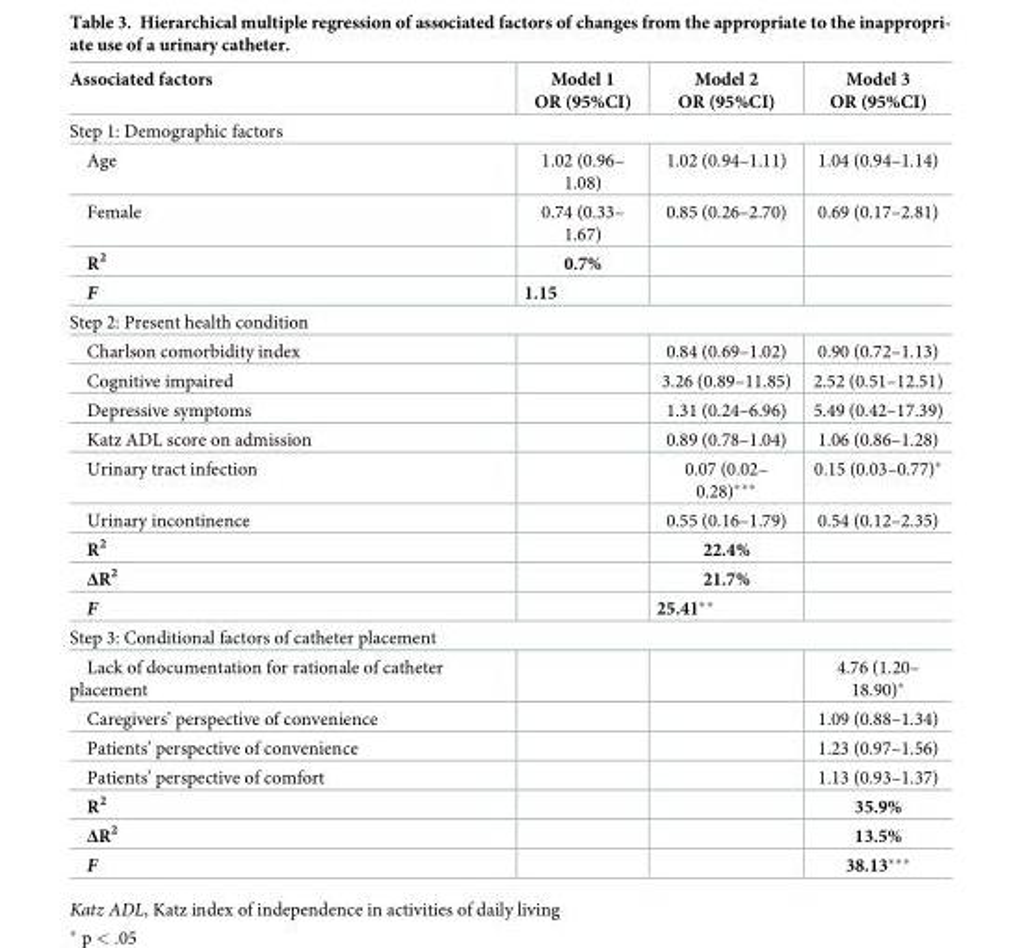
<table><thead><tr><td>Associated factors</td><td>Model 1 OR (95%CI)</td><td>Model 2 OR (95%CI)</td><td>Model 3 OR (95%CI)</td></tr></thead><tbody><tr><td colspan="4">Step 1: Demographic factors</td></tr><tr><td>Age</td><td>1.02 (0.96– 1.08)</td><td>1.02 (0.94–1.11)</td><td>1.04 (0.94–1.14)</td></tr><tr><td>Female</td><td>0.74 (0.33– 1.67)</td><td>0.85 (0.26–2.70)</td><td>0.69 (0.17–2.81)</td></tr><tr><td>R<sup>2</sup></td><td>0.7%</td><td></td><td></td></tr><tr><td>F</td><td>1.15</td><td></td><td></td></tr><tr><td colspan="4">Step 2: Present health condition</td></tr><tr><td>Charlson comorbidity index</td><td></td><td>0.84 (0.69–1.02)</td><td>0.90 (0.72–1.13)</td></tr><tr><td>Cognitive impaired</td><td></td><td>3.26 (0.89–11.85)</td><td>2.52 (0.51–12.51)</td></tr><tr><td>Depressive symptoms</td><td></td><td>1.31 (0.24–6.96)</td><td>5.49 (0.42–17.39)</td></tr><tr><td>Katz ADL score on admission</td><td></td><td>0.89 (0.78–1.04)</td><td>1.06 (0.86–1.28)</td></tr><tr><td>Urinary tract infection</td><td></td><td>0.07 (0.02– 0.28)***</td><td>0.15 (0.03–0.77)*</td></tr><tr><td>Urinary incontinence</td><td></td><td>0.55 (0.16–1.79)</td><td>0.54 (0.12–2.35)</td></tr><tr><td>R<sup>2</sup></td><td></td><td>22.4%</td><td></td></tr><tr><td>ΔR<sup>2</sup></td><td></td><td>21.7%</td><td></td></tr><tr><td>F</td><td></td><td>25.41**</td><td></td></tr><tr><td colspan="4">Step 3: Conditional factors of catheter placement</td></tr><tr><td>Lack of documentation for rationale of catheter placement</td><td></td><td></td><td>4.76 (1.20– 18.90)*</td></tr><tr><td>Caregivers’ perspective of convenience</td><td></td><td></td><td>1.09 (0.88–1.34)</td></tr><tr><td>Patients’ perspective of convenience</td><td></td><td></td><td>1.23 (0.97–1.56)</td></tr><tr><td>Patients’ perspective of comfort</td><td></td><td></td><td>1.13 (0.93–1.37)</td></tr><tr><td>R<sup>2</sup></td><td></td><td></td><td>35.9%</td></tr><tr><td>ΔR<sup>2</sup></td><td></td><td></td><td>13.5%</td></tr><tr><td>F</td><td></td><td></td><td>38.13***</td></tr></tbody></table>